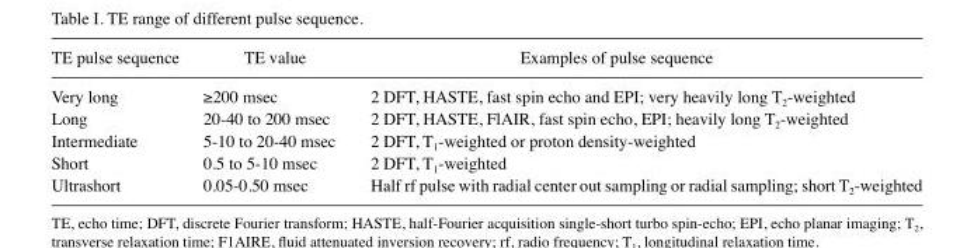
<table><thead><tr><td>TE pulse sequence</td><td>TE value</td><td>Examples of pulse sequence</td></tr></thead><tbody><tr><td>Very long</td><td>≥200 msec</td><td>2 DFT, HASTE, fast spin echo and EPI; very heavily long T<sub>2</sub>-weighted</td></tr><tr><td>Long</td><td>20-40 to 200 msec</td><td>2 DFT, HASTE, FlAIR, fast spin echo, EPI; heavily long T<sub>2</sub>-weighted</td></tr><tr><td>Intermediate</td><td>5-10 to 20-40 msec</td><td>2 DFT, T<sub>1</sub>-weighted or proton density-weighted</td></tr><tr><td>Short</td><td>0.5 to 5-10 msec</td><td>2 DFT, T<sub>1</sub>-weighted</td></tr><tr><td>Ultrashort</td><td>0.05-0.50 msec</td><td>Half rf pulse with radial center out sampling or radial sampling; short T<sub>2</sub>-weighted</td></tr></tbody></table>